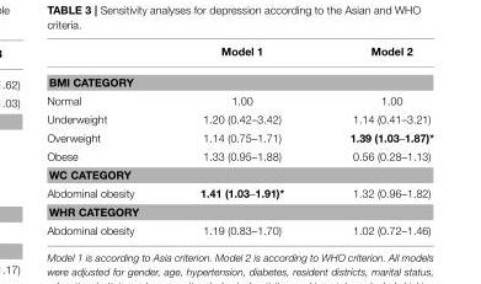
<table><thead><tr><td></td><td>Model 1</td><td>Model 2</td></tr></thead><tbody><tr><td colspan="3">BMI CATEGORY</td></tr><tr><td>Normal</td><td>1.00</td><td>1.00</td></tr><tr><td>Underweight</td><td>1.20 (0.42–3.42)</td><td>1.14 (0.41–3.21)</td></tr><tr><td>Overweight</td><td>1.14 (0.75–1.71)</td><td>1.39 (1.03–1.87)*</td></tr><tr><td>Obese</td><td>1.33 (0.95–1.88)</td><td>0.56 (0.28–1.13)</td></tr><tr><td colspan="3">WC CATEGORY</td></tr><tr><td>Abdominal obesity</td><td>1.41 (1.03–1.91)*</td><td>1.32 (0.96–1.82)</td></tr><tr><td colspan="3">WHR CATEGORY</td></tr><tr><td>Abdominal obesity</td><td>1.19 (0.83–1.70)</td><td>1.02 (0.72–1.46)</td></tr></tbody></table>